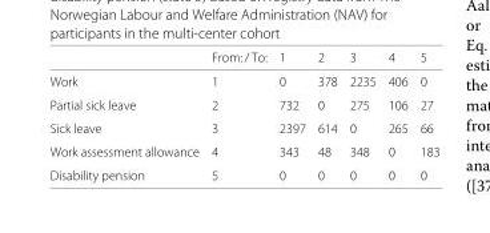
<table><thead><tr><td></td><td>From: / To:</td><td>1</td><td>2</td><td>3</td><td>4</td><td>5</td></tr></thead><tbody><tr><td>Work</td><td>1</td><td>0</td><td>378</td><td>2235</td><td>406</td><td>0</td></tr><tr><td>Partial sick leave</td><td>2</td><td>732</td><td>0</td><td>275</td><td>106</td><td>27</td></tr><tr><td>Sick leave</td><td>3</td><td>2397</td><td>614</td><td>0</td><td>265</td><td>66</td></tr><tr><td>Work assessment allowance</td><td>4</td><td>343</td><td>48</td><td>348</td><td>0</td><td>183</td></tr><tr><td>Disability pension</td><td>5</td><td>0</td><td>0</td><td>0</td><td>0</td><td>0</td></tr></tbody></table>